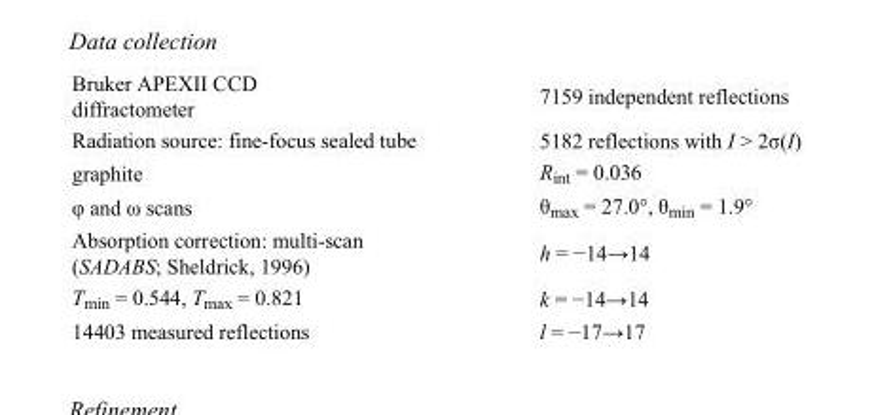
<table><tbody><tr><td>Bruker APEXII CCD diffractometer</td><td>7159 independent reflections</td></tr><tr><td>Radiation source: fine-focus sealed tube</td><td>5182 reflections with I &gt; 2σ(I)</td></tr><tr><td>graphite</td><td>R<sub>int</sub> = 0.036</td></tr><tr><td>φ and ω scans</td><td>θ<sub>max</sub> = 27.0°, θ<sub>min</sub> = 1.9°</td></tr><tr><td>Absorption correction: multi-scan (SADABS; Sheldrick, 1996)</td><td>h = −14→14</td></tr><tr><td>T<sub>min</sub> = 0.544, T<sub>max</sub> = 0.821</td><td>k = −14→14</td></tr><tr><td>14403 measured reflections</td><td>l = −17→17</td></tr></tbody></table>